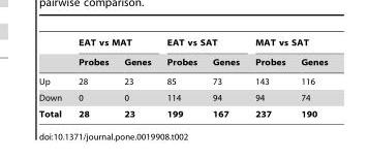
<table><thead><tr><td rowspan="2"></td><td colspan="2">EAT vs MAT</td><td colspan="2">EAT vs SAT</td><td colspan="2">MAT vs SAT</td></tr><tr><td>Probes</td><td>Genes</td><td>Probes</td><td>Genes</td><td>Probes</td><td>Genes</td></tr></thead><tbody><tr><td>Up</td><td>28</td><td>23</td><td>85</td><td>73</td><td>143</td><td>116</td></tr><tr><td>Down</td><td>0</td><td>0</td><td>114</td><td>94</td><td>94</td><td>74</td></tr><tr><td>Total</td><td>28</td><td>23</td><td>199</td><td>167</td><td>237</td><td>190</td></tr></tbody></table>